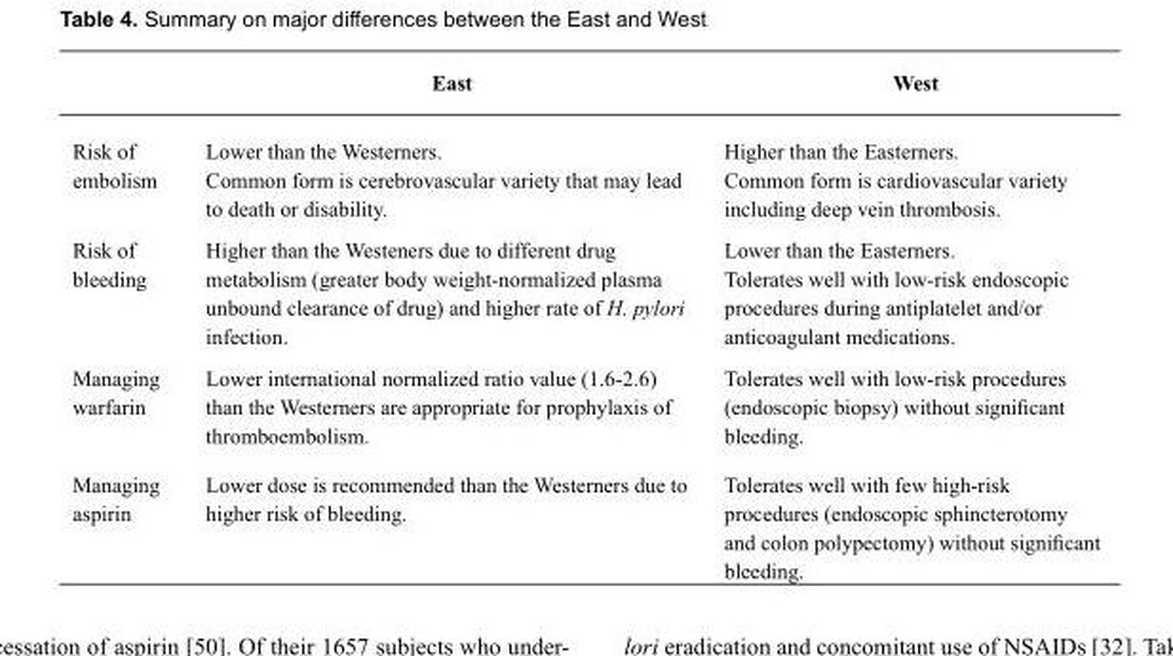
<table><thead><tr><td></td><td>East</td><td>West</td></tr></thead><tbody><tr><td>Risk of embolism</td><td>Lower than the Westerners. Common form is cerebrovascular variety that may lead to death or disability.</td><td>Higher than the Easterners. Common form is cardiovascular variety including deep vein thrombosis.</td></tr><tr><td>Risk of bleeding</td><td>Higher than the Westeners due to different drug metabolism (greater body weight-normalized plasma unbound clearance of drug) and higher rate of H. pylori infection.</td><td>Lower than the Easterners. Tolerates well with low-risk endoscopic procedures during antiplatelet and/or anticoagulant medications.</td></tr><tr><td>Managing warfarin</td><td>Lower international normalized ratio value (1.6-2.6) than the Westerners are appropriate for prophylaxis of thromboembolism.</td><td>Tolerates well with low-risk procedures (endoscopic biopsy) without significant bleeding.</td></tr><tr><td>Managing aspirin</td><td>Lower dose is recommended than the Westerners due to higher risk of bleeding.</td><td>Tolerates well with few high-risk procedures (endoscopic sphincterotomy and colon polypectomy) without significant bleeding.</td></tr></tbody></table>